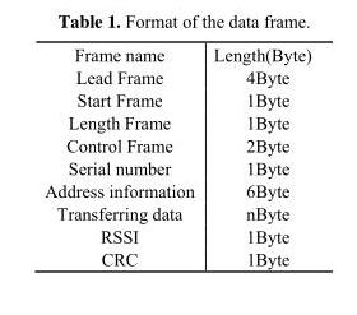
<table><thead><tr><td>Frame name</td><td>Length(Byte)</td></tr></thead><tbody><tr><td>Lead Frame</td><td>4Byte</td></tr><tr><td>Start Frame</td><td>1Byte</td></tr><tr><td>Length Frame</td><td>1Byte</td></tr><tr><td>Control Frame</td><td>2Byte</td></tr><tr><td>Serial number</td><td>1Byte</td></tr><tr><td>Address information</td><td>6Byte</td></tr><tr><td>Transferring data</td><td>nByte</td></tr><tr><td>RSSI</td><td>1Byte</td></tr><tr><td>CRC</td><td>1Byte</td></tr></tbody></table>